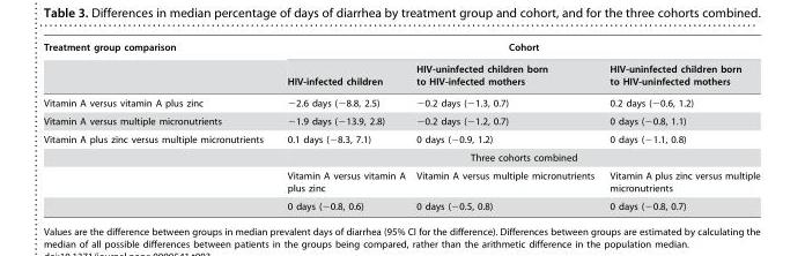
<table><thead><tr><td rowspan="2">Treatment group comparison</td><td colspan="3">Cohort</td></tr><tr><td>HIV-infected children</td><td>HIV-uninfected children born to HIV-infected mothers</td><td>HIV-uninfected children born to HIV-uninfected mothers</td></tr></thead><tbody><tr><td>Vitamin A versus vitamin A plus zinc</td><td>−2.6 days (−8.8, 2.5)</td><td>−0.2 days (−1.3, 0.7)</td><td>0.2 days (−0.6, 1.2)</td></tr><tr><td>Vitamin A versus multiple micronutrients</td><td>−1.9 days (−13.9, 2.8)</td><td>−0.2 days (−1.2, 0.7)</td><td>0 days (−0.8, 1.1)</td></tr><tr><td rowspan="4">Vitamin A plus zinc versus multiple micronutrients</td><td>0.1 days (−8.3, 7.1)</td><td>0 days (−0.9, 1.2)</td><td>0 days (−1.1, 0.8)</td></tr><tr><td colspan="3">Three cohorts combined</td></tr><tr><td>Vitamin A versus vitamin A plus zinc</td><td>Vitamin A versus multiple micronutrients</td><td>Vitamin A plus zinc versus multiple micronutrients</td></tr><tr><td>0 days (−0.8, 0.6)</td><td>0 days (−0.5, 0.8)</td><td>0 days (−0.8, 0.7)</td></tr></tbody></table>